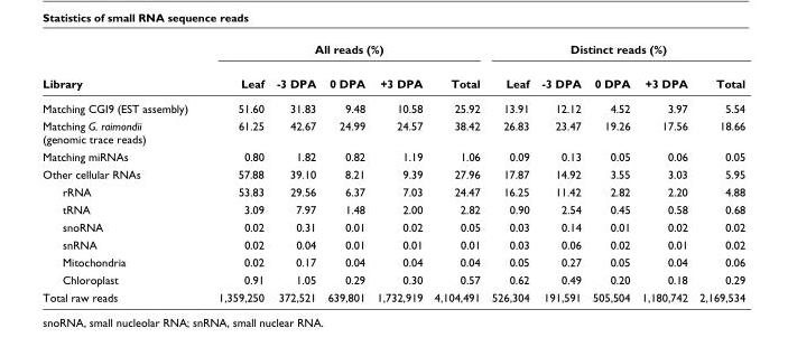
<table><thead><tr><td rowspan="2">Library</td><td colspan="5">All reads (%)</td><td colspan="5">Distinct reads (%)</td></tr><tr><td>Leaf</td><td>-3 DPA</td><td>0 DPA</td><td>+3 DPA</td><td>Total</td><td>Leaf</td><td>-3 DPA</td><td>0 DPA</td><td>+3 DPA</td><td>Total</td></tr></thead><tbody><tr><td>Matching CGI9 (EST assembly)</td><td>51.60</td><td>31.83</td><td>9.48</td><td>10.58</td><td>25.92</td><td>13.91</td><td>12.12</td><td>4.52</td><td>3.97</td><td>5.54</td></tr><tr><td>Matching G. raimondii (genomic trace reads)</td><td>61.25</td><td>42.67</td><td>24.99</td><td>24.57</td><td>38.42</td><td>26.83</td><td>23.47</td><td>19.26</td><td>17.56</td><td>18.66</td></tr><tr><td>Matching miRNAs</td><td>0.80</td><td>1.82</td><td>0.82</td><td>1.19</td><td>1.06</td><td>0.09</td><td>0.13</td><td>0.05</td><td>0.06</td><td>0.05</td></tr><tr><td>Other cellular RNAs</td><td>57.88</td><td>39.10</td><td>8.21</td><td>9.39</td><td>27.96</td><td>17.87</td><td>14.92</td><td>3.55</td><td>3.03</td><td>5.95</td></tr><tr><td>rRNA</td><td>53.83</td><td>29.56</td><td>6.37</td><td>7.03</td><td>24.47</td><td>16.25</td><td>11.42</td><td>2.82</td><td>2.20</td><td>4.88</td></tr><tr><td>tRNA</td><td>3.09</td><td>7.97</td><td>1.48</td><td>2.00</td><td>2.82</td><td>0.90</td><td>2.54</td><td>0.45</td><td>0.58</td><td>0.68</td></tr><tr><td>snoRNA</td><td>0.02</td><td>0.31</td><td>0.01</td><td>0.02</td><td>0.05</td><td>0.03</td><td>0.14</td><td>0.01</td><td>0.02</td><td>0.02</td></tr><tr><td>snRNA</td><td>0.02</td><td>0.04</td><td>0.01</td><td>0.01</td><td>0.01</td><td>0.03</td><td>0.06</td><td>0.02</td><td>0.01</td><td>0.02</td></tr><tr><td>Mitochondria</td><td>0.02</td><td>0.17</td><td>0.04</td><td>0.04</td><td>0.04</td><td>0.05</td><td>0.27</td><td>0.05</td><td>0.04</td><td>0.06</td></tr><tr><td>Chloroplast</td><td>0.91</td><td>1.05</td><td>0.29</td><td>0.30</td><td>0.57</td><td>0.62</td><td>0.49</td><td>0.20</td><td>0.18</td><td>0.29</td></tr><tr><td>Total raw reads</td><td>1,359,250</td><td>372,521</td><td>639,801</td><td>1,732,919</td><td>4,104,491</td><td>526,304</td><td>191,591</td><td>505,504</td><td>1,180,742</td><td>2,169,534</td></tr></tbody></table>